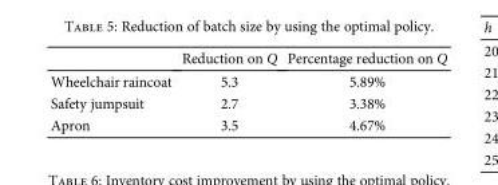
<table><thead><tr><td></td><td>Reduction on Q</td><td>Percentage reduction on Q</td></tr></thead><tbody><tr><td>Wheelchair raincoat</td><td>5.3</td><td>5.89%</td></tr><tr><td>Safety jumpsuit</td><td>2.7</td><td>3.38%</td></tr><tr><td>Apron</td><td>3.5</td><td>4.67%</td></tr></tbody></table>